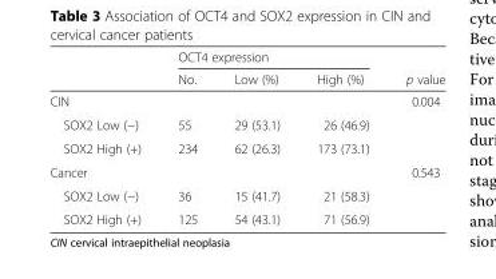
<table><thead><tr><td rowspan="2"></td><td colspan="3">OCT4 expression</td><td rowspan="2">p value</td></tr><tr><td>No.</td><td>Low (%)</td><td>High (%)</td></tr></thead><tbody><tr><td>CIN</td><td></td><td></td><td></td><td>0.004</td></tr><tr><td>SOX2 Low (−)</td><td>55</td><td>29 (53.1)</td><td>26 (46.9)</td><td></td></tr><tr><td>SOX2 High (+)</td><td>234</td><td>62 (26.3)</td><td>173 (73.1)</td><td></td></tr><tr><td>Cancer</td><td></td><td></td><td></td><td>0.543</td></tr><tr><td>SOX2 Low (−)</td><td>36</td><td>15 (41.7)</td><td>21 (58.3)</td><td></td></tr><tr><td>SOX2 High (+)</td><td>125</td><td>54 (43.1)</td><td>71 (56.9)</td><td></td></tr></tbody></table>